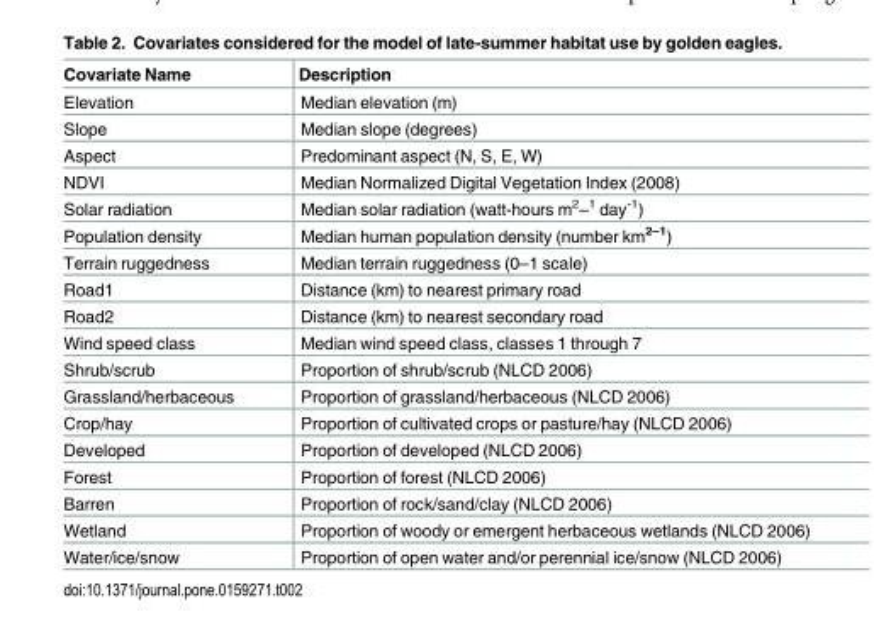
<table><thead><tr><td>Covariate Name</td><td>Description</td></tr></thead><tbody><tr><td>Elevation</td><td>Median elevation (m)</td></tr><tr><td>Slope</td><td>Median slope (degrees)</td></tr><tr><td>Aspect</td><td>Predominant aspect (N, S, E, W)</td></tr><tr><td>NDVI</td><td>Median Normalized Digital Vegetation Index (2008)</td></tr><tr><td>Solar radiation</td><td>Median solar radiation (watt-hours m<sup>2</sup>–<sup>1</sup> day<sup>-1</sup>)</td></tr><tr><td>Population density</td><td>Median human population density (number km<sup>2–1</sup>)</td></tr><tr><td>Terrain ruggedness</td><td>Median terrain ruggedness (0–1 scale)</td></tr><tr><td>Road1</td><td>Distance (km) to nearest primary road</td></tr><tr><td>Road2</td><td>Distance (km) to nearest secondary road</td></tr><tr><td>Wind speed class</td><td>Median wind speed class, classes 1 through 7</td></tr><tr><td>Shrub/scrub</td><td>Proportion of shrub/scrub (NLCD 2006)</td></tr><tr><td>Grassland/herbaceous</td><td>Proportion of grassland/herbaceous (NLCD 2006)</td></tr><tr><td>Crop/hay</td><td>Proportion of cultivated crops or pasture/hay (NLCD 2006)</td></tr><tr><td>Developed</td><td>Proportion of developed (NLCD 2006)</td></tr><tr><td>Forest</td><td>Proportion of forest (NLCD 2006)</td></tr><tr><td>Barren</td><td>Proportion of rock/sand/clay (NLCD 2006)</td></tr><tr><td>Wetland</td><td>Proportion of woody or emergent herbaceous wetlands (NLCD 2006)</td></tr><tr><td>Water/ice/snow</td><td>Proportion of open water and/or perennial ice/snow (NLCD 2006)</td></tr></tbody></table>